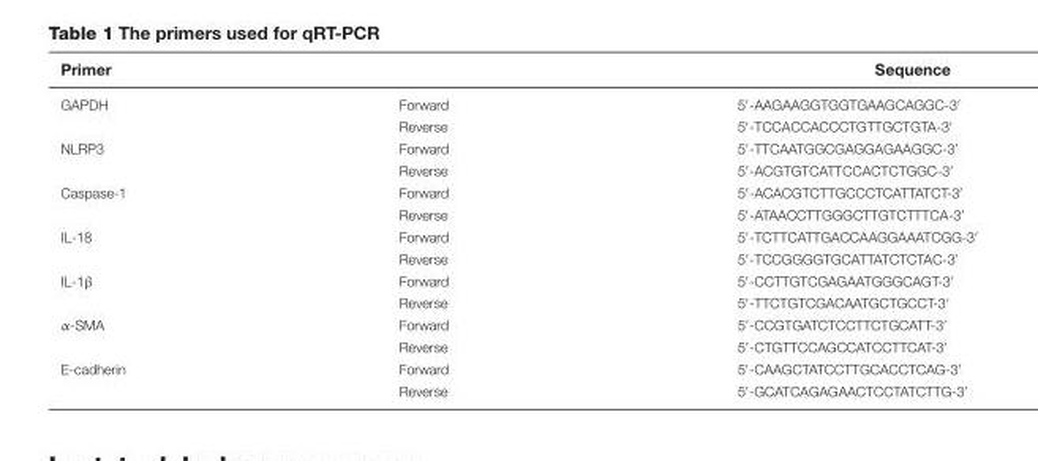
<table><thead><tr><td>Primer</td><td></td><td>Sequence</td></tr></thead><tbody><tr><td rowspan="2">GAPDH</td><td>Forward</td><td>5′-AAGAAGGTGGTGAAGCAGGC-3′</td></tr><tr><td>Reverse</td><td>5′-TCCACCACCCTGTTGCTGTA-3′</td></tr><tr><td rowspan="2">NLRP3</td><td>Forward</td><td>5′-TTCAATGGCGAGGAGAAGGC-3′</td></tr><tr><td>Reverse</td><td>5′-ACGTGTCATTCCACTCTGGC-3′</td></tr><tr><td rowspan="2">Caspase-1</td><td>Forward</td><td>5′-ACACGTCTTGCCCTCATTATCT-3′</td></tr><tr><td>Reverse</td><td>5′-ATAACCTTGGGCTTGTCTTTCA-3′</td></tr><tr><td rowspan="2">IL-18</td><td>Forward</td><td>5′-TCTTCATTGACCAAGGAAATCGG-3′</td></tr><tr><td>Reverse</td><td>5′-TCCGGGGTGCATTATCTCTAC-3′</td></tr><tr><td rowspan="2">IL-1β</td><td>Forward</td><td>5′-CCTTGTCGAGAATGGGCAGT-3′</td></tr><tr><td>Reverse</td><td>5′-TTCTGTCGACAATGCTGCCT-3′</td></tr><tr><td rowspan="2">α-SMA</td><td>Forward</td><td>5′-CCGTGATCTCCTTCTGCATT-3′</td></tr><tr><td>Reverse</td><td>5′-CTGTTCCAGCCATCCTTCAT-3′</td></tr><tr><td rowspan="2">E-cadherin</td><td>Forward</td><td>5′-CAAGCTATCCTTGCACCTCAG-3′</td></tr><tr><td>Reverse</td><td>5′-GCATCAGAGAACTCCTATCTTG-3′</td></tr></tbody></table>